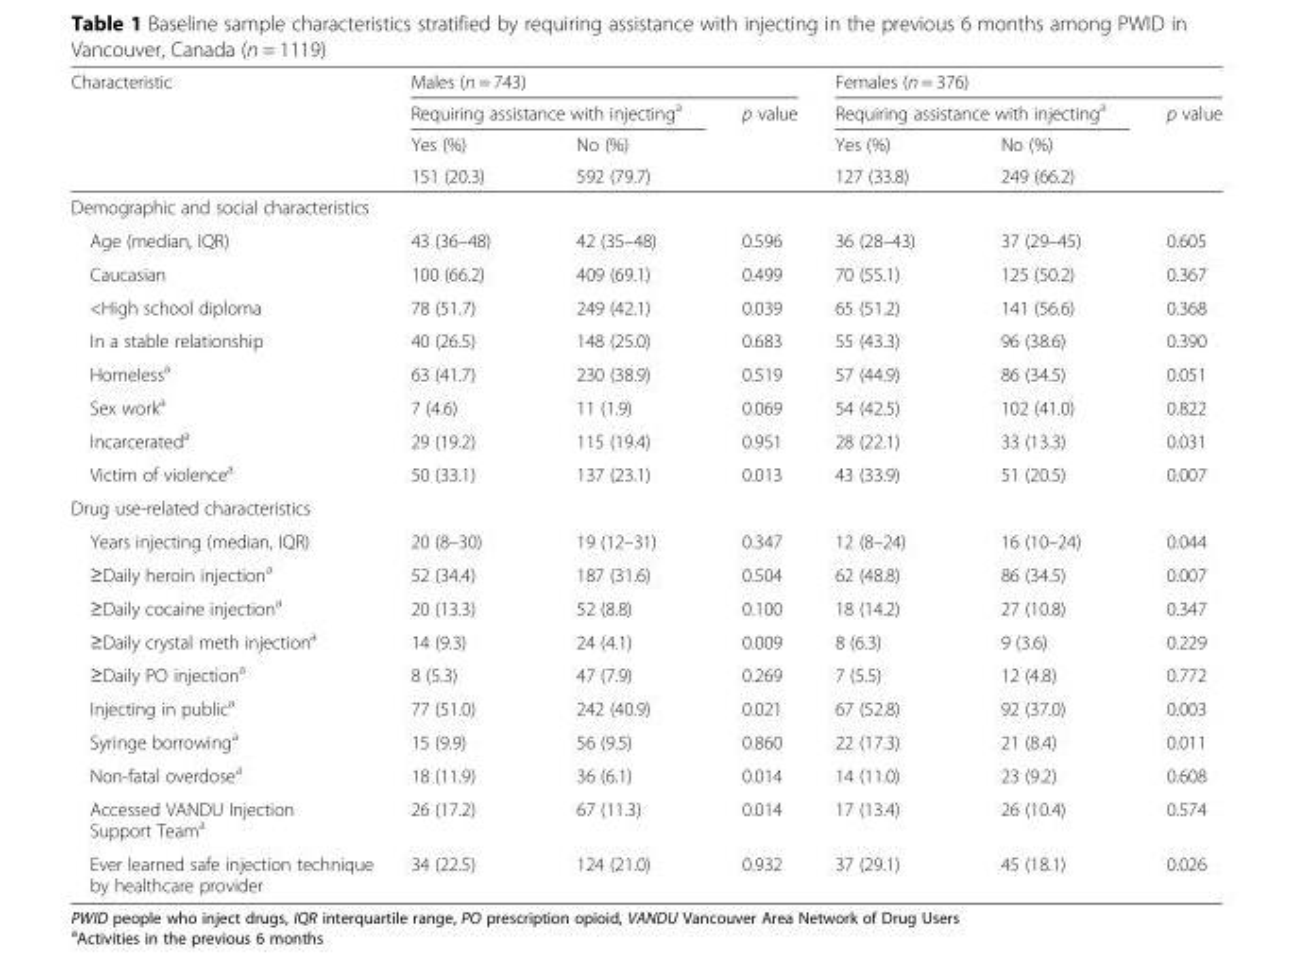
<table><thead><tr><td rowspan="4">Characteristic</td><td colspan="3">Males (n = 743)</td><td colspan="3">Females (n = 376)</td></tr><tr><td colspan="2">Requiring assistance with injecting<sup>a</sup></td><td rowspan="2">p value</td><td colspan="2">Requiring assistance with injecting<sup>a</sup></td><td rowspan="2">p value</td></tr><tr><td rowspan="2">Yes (%) 151 (20.3)</td><td>No (%)</td><td rowspan="2">Yes (%) 127 (33.8)</td><td>No (%)</td></tr><tr><td colspan="2">592 (79.7)</td><td colspan="2">249 (66.2)</td></tr></thead><tbody><tr><td colspan="7">Demographic and social characteristics</td></tr><tr><td>Age (median, IQR)</td><td>43 (36–48)</td><td>42 (35–48)</td><td>0.596</td><td>36 (28–43)</td><td>37 (29–45)</td><td>0.605</td></tr><tr><td>Caucasian</td><td>100 (66.2)</td><td>409 (69.1)</td><td>0.499</td><td>70 (55.1)</td><td>125 (50.2)</td><td>0.367</td></tr><tr><td>&lt;High school diploma</td><td>78 (51.7)</td><td>249 (42.1)</td><td>0.039</td><td>65 (51.2)</td><td>141 (56.6)</td><td>0.368</td></tr><tr><td>In a stable relationship</td><td>40 (26.5)</td><td>148 (25.0)</td><td>0.683</td><td>55 (43.3)</td><td>96 (38.6)</td><td>0.390</td></tr><tr><td>Homeless<sup>a</sup></td><td>63 (41.7)</td><td>230 (38.9)</td><td>0.519</td><td>57 (44.9)</td><td>86 (34.5)</td><td>0.051</td></tr><tr><td>Sex work<sup>a</sup></td><td>7 (4.6)</td><td>11 (1.9)</td><td>0.069</td><td>54 (42.5)</td><td>102 (41.0)</td><td>0.822</td></tr><tr><td>Incarcerated<sup>a</sup></td><td>29 (19.2)</td><td>115 (19.4)</td><td>0.951</td><td>28 (22.1)</td><td>33 (13.3)</td><td>0.031</td></tr><tr><td>Victim of violence<sup>a</sup></td><td>50 (33.1)</td><td>137 (23.1)</td><td>0.013</td><td>43 (33.9)</td><td>51 (20.5)</td><td>0.007</td></tr><tr><td colspan="7">Drug use-related characteristics</td></tr><tr><td>Years injecting (median, IQR)</td><td>20 (8–30)</td><td>19 (12–31)</td><td>0.347</td><td>12 (8–24)</td><td>16 (10–24)</td><td>0.044</td></tr><tr><td>≥Daily heroin injection<sup>a</sup></td><td>52 (34.4)</td><td>187 (31.6)</td><td>0.504</td><td>62 (48.8)</td><td>86 (34.5)</td><td>0.007</td></tr><tr><td>≥Daily cocaine injection<sup>a</sup></td><td>20 (13.3)</td><td>52 (8.8)</td><td>0.100</td><td>18 (14.2)</td><td>27 (10.8)</td><td>0.347</td></tr><tr><td>≥Daily crystal meth injection<sup>a</sup></td><td>14 (9.3)</td><td>24 (4.1)</td><td>0.009</td><td>8 (6.3)</td><td>9 (3.6)</td><td>0.229</td></tr><tr><td>≥Daily PO injection<sup>a</sup></td><td>8 (5.3)</td><td>47 (7.9)</td><td>0.269</td><td>7 (5.5)</td><td>12 (4.8)</td><td>0.772</td></tr><tr><td>Injecting in public<sup>a</sup></td><td>77 (51.0)</td><td>242 (40.9)</td><td>0.021</td><td>67 (52.8)</td><td>92 (37.0)</td><td>0.003</td></tr><tr><td>Syringe borrowing<sup>a</sup></td><td>15 (9.9)</td><td>56 (9.5)</td><td>0.860</td><td>22 (17.3)</td><td>21 (8.4)</td><td>0.011</td></tr><tr><td>Non-fatal overdose<sup>a</sup></td><td>18 (11.9)</td><td>36 (6.1)</td><td>0.014</td><td>14 (11.0)</td><td>23 (9.2)</td><td>0.608</td></tr><tr><td>Accessed VANDU Injection Support Team<sup>a</sup></td><td>26 (17.2)</td><td>67 (11.3)</td><td>0.014</td><td>17 (13.4)</td><td>26 (10.4)</td><td>0.574</td></tr><tr><td>Ever learned safe injection technique by healthcare provider</td><td>34 (22.5)</td><td>124 (21.0)</td><td>0.932</td><td>37 (29.1)</td><td>45 (18.1)</td><td>0.026</td></tr></tbody></table>